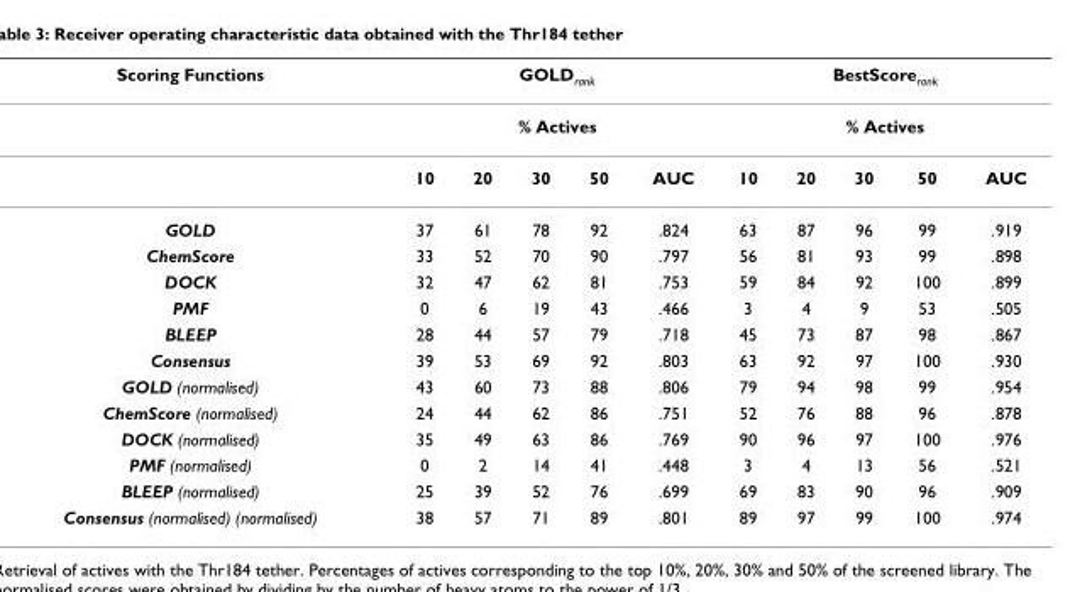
<table><thead><tr><td rowspan="3">Scoring Functions</td><td rowspan="2" colspan="5">GOLDrank % Actives</td><td rowspan="2" colspan="5">BestScorerank % Actives</td></tr><tr></tr><tr><td>10</td><td>20</td><td>30</td><td>50</td><td>AUC</td><td>10</td><td>20</td><td>30</td><td>50</td><td>AUC</td></tr></thead><tbody><tr><td>GOLD</td><td>37</td><td>61</td><td>78</td><td>92</td><td>.824</td><td>63</td><td>87</td><td>96</td><td>99</td><td>.919</td></tr><tr><td>ChemScore</td><td>33</td><td>52</td><td>70</td><td>90</td><td>.797</td><td>56</td><td>81</td><td>93</td><td>99</td><td>.898</td></tr><tr><td>DOCK</td><td>32</td><td>47</td><td>62</td><td>81</td><td>.753</td><td>59</td><td>84</td><td>92</td><td>100</td><td>.899</td></tr><tr><td>PMF</td><td>0</td><td>6</td><td>19</td><td>43</td><td>.466</td><td>3</td><td>4</td><td>9</td><td>53</td><td>.505</td></tr><tr><td>BLEEP</td><td>28</td><td>44</td><td>57</td><td>79</td><td>.718</td><td>45</td><td>73</td><td>87</td><td>98</td><td>.867</td></tr><tr><td>Consensus</td><td>39</td><td>53</td><td>69</td><td>92</td><td>.803</td><td>63</td><td>92</td><td>97</td><td>100</td><td>.930</td></tr><tr><td>GOLD (normalised)</td><td>43</td><td>60</td><td>73</td><td>88</td><td>.806</td><td>79</td><td>94</td><td>98</td><td>99</td><td>.954</td></tr><tr><td>ChemScore (normalised)</td><td>24</td><td>44</td><td>62</td><td>86</td><td>.751</td><td>52</td><td>76</td><td>88</td><td>96</td><td>.878</td></tr><tr><td>DOCK (normalised)</td><td>35</td><td>49</td><td>63</td><td>86</td><td>.769</td><td>90</td><td>96</td><td>97</td><td>100</td><td>.976</td></tr><tr><td>PMF (normalised)</td><td>0</td><td>2</td><td>14</td><td>41</td><td>.448</td><td>3</td><td>4</td><td>13</td><td>56</td><td>.521</td></tr><tr><td>BLEEP (normalised)</td><td>25</td><td>39</td><td>52</td><td>76</td><td>.699</td><td>69</td><td>83</td><td>90</td><td>96</td><td>.909</td></tr><tr><td>Consensus (normalised) (normalised)</td><td>38</td><td>57</td><td>71</td><td>89</td><td>.801</td><td>89</td><td>97</td><td>99</td><td>100</td><td>.974</td></tr></tbody></table>